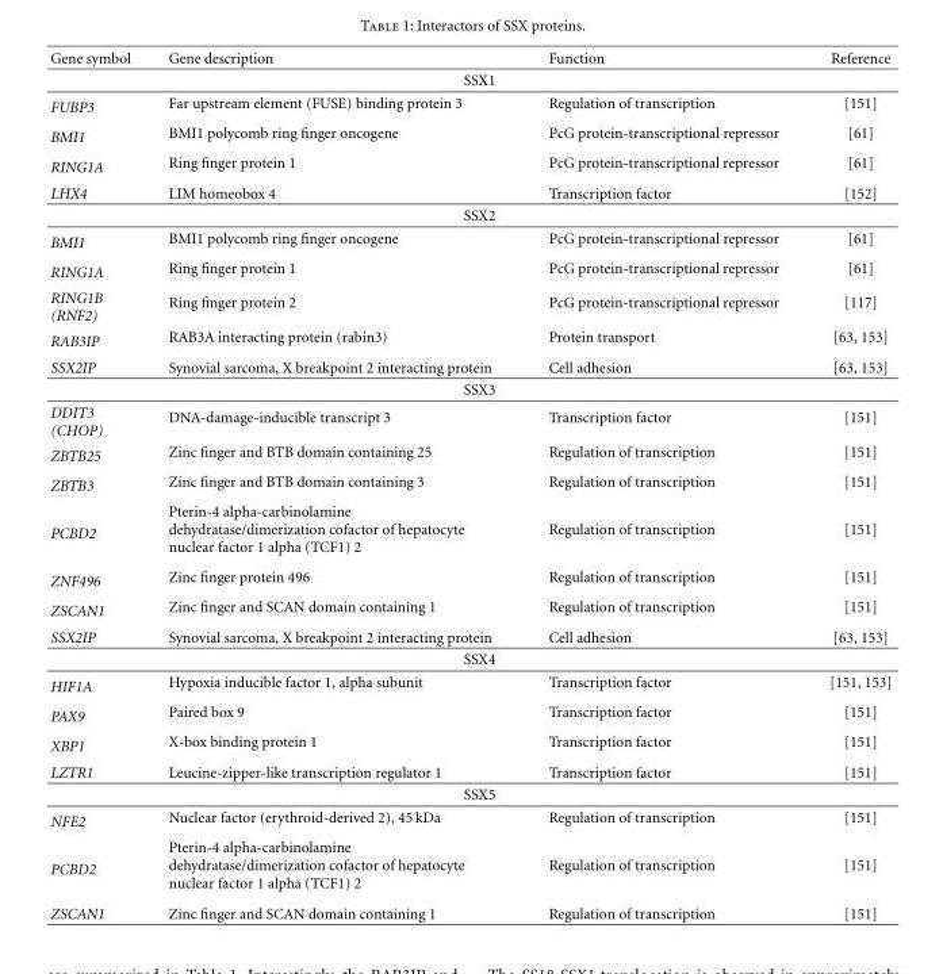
<table><thead><tr><td>Gene symbol</td><td>Gene description</td><td>Function</td><td>Reference</td></tr></thead><tbody><tr><td></td><td colspan="2">SSX1</td><td></td></tr><tr><td>FUBP3</td><td>Far upstream element (FUSE) binding protein 3</td><td>Regulation of transcription</td><td>[151]</td></tr><tr><td>BMI1</td><td>BMI1 polycomb ring finger oncogene</td><td>PcG protein-transcriptional repressor</td><td>[61]</td></tr><tr><td>RING1A</td><td>Ring finger protein 1</td><td>PcG protein-transcriptional repressor</td><td>[61]</td></tr><tr><td rowspan="2">LHX4</td><td>LIM homeobox 4</td><td>Transcription factor</td><td>[152]</td></tr><tr><td colspan="2">SSX2</td><td></td></tr><tr><td>BMI1</td><td>BMI1 polycomb ring finger oncogene</td><td>PcG protein-transcriptional repressor</td><td>[61]</td></tr><tr><td>RING1A</td><td>Ring finger protein 1</td><td>PcG protein-transcriptional repressor</td><td>[61]</td></tr><tr><td>RING1B (RNF2)</td><td>Ring finger protein 2</td><td>PcG protein-transcriptional repressor</td><td>[117]</td></tr><tr><td>RAB3IP</td><td>RAB3A interacting protein (rabin3)</td><td>Protein transport</td><td>[63, 153]</td></tr><tr><td rowspan="2">SSX2IP</td><td>Synovial sarcoma, X breakpoint 2 interacting protein</td><td>Cell adhesion</td><td>[63, 153]</td></tr><tr><td colspan="2">SSX3</td><td></td></tr><tr><td>DDIT3 (CHOP)</td><td>DNA-damage-inducible transcript 3</td><td>Transcription factor</td><td>[151]</td></tr><tr><td>ZBTB25</td><td>Zinc finger and BTB domain containing 25</td><td>Regulation of transcription</td><td>[151]</td></tr><tr><td>ZBTB3</td><td>Zinc finger and BTB domain containing 3</td><td>Regulation of transcription</td><td>[151]</td></tr><tr><td>PCBD2</td><td>Pterin-4 alpha-carbinolamine dehydratase/dimerization cofactor of hepatocyte nuclear factor 1 alpha (TCF1) 2</td><td>Regulation of transcription</td><td>[151]</td></tr><tr><td>ZNF496</td><td>Zinc finger protein 496</td><td>Regulation of transcription</td><td>[151]</td></tr><tr><td>ZSCAN1</td><td>Zinc finger and SCAN domain containing 1</td><td>Regulation of transcription</td><td>[151]</td></tr><tr><td rowspan="2">SSX2IP</td><td>Synovial sarcoma, X breakpoint 2 interacting protein</td><td>Cell adhesion</td><td>[63, 153]</td></tr><tr><td colspan="2">SSX4</td><td></td></tr><tr><td>HIF1A</td><td>Hypoxia inducible factor 1, alpha subunit</td><td>Transcription factor</td><td>[151, 153]</td></tr><tr><td>PAX9</td><td>Paired box 9</td><td>Transcription factor</td><td>[151]</td></tr><tr><td>XBP1</td><td>X-box binding protein 1</td><td>Transcription factor</td><td>[151]</td></tr><tr><td rowspan="2">LZTR1</td><td>Leucine-zipper-like transcription regulator 1</td><td>Transcription factor</td><td>[151]</td></tr><tr><td colspan="2">SSX5</td><td></td></tr><tr><td>NFE2</td><td>Nuclear factor (erythroid-derived 2), 45 kDa</td><td>Regulation of transcription</td><td>[151]</td></tr><tr><td>PCBD2</td><td>Pterin-4 alpha-carbinolamine dehydratase/dimerization cofactor of hepatocyte nuclear factor 1 alpha (TCF1) 2</td><td>Regulation of transcription</td><td>[151]</td></tr><tr><td>ZSCAN1</td><td>Zinc finger and SCAN domain containing 1</td><td>Regulation of transcription</td><td>[151]</td></tr></tbody></table>